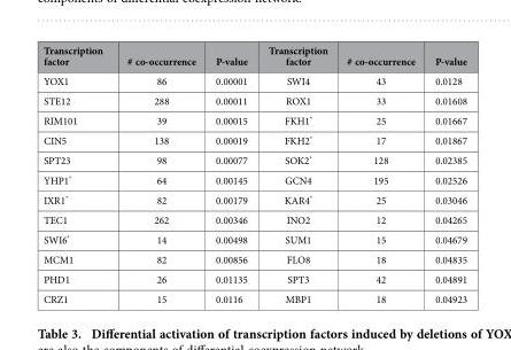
<table><thead><tr><td>Transcription factor</td><td># co-occurrence</td><td>P-value</td><td>Transcription factor</td><td># co-occurrence</td><td>P-value</td></tr></thead><tbody><tr><td>YOX1</td><td>86</td><td>0.00001</td><td>SWI4</td><td>43</td><td>0.0128</td></tr><tr><td>STE12</td><td>288</td><td>0.00011</td><td>ROX1</td><td>33</td><td>0.01608</td></tr><tr><td>RIM101</td><td>39</td><td>0.00015</td><td>FKH1*</td><td>25</td><td>0.01667</td></tr><tr><td>CIN5</td><td>138</td><td>0.00019</td><td>FKH2*</td><td>17</td><td>0.01867</td></tr><tr><td>SPT23</td><td>98</td><td>0.00077</td><td>SOK2*</td><td>128</td><td>0.02385</td></tr><tr><td>YHP1*</td><td>64</td><td>0.00145</td><td>GCN4</td><td>195</td><td>0.02526</td></tr><tr><td>IXR1*</td><td>82</td><td>0.00179</td><td>KAR4*</td><td>25</td><td>0.03046</td></tr><tr><td>TEC1</td><td>262</td><td>0.00346</td><td>INO2</td><td>12</td><td>0.04265</td></tr><tr><td>SWI6*</td><td>14</td><td>0.00498</td><td>SUM1</td><td>15</td><td>0.04679</td></tr><tr><td>MCM1</td><td>82</td><td>0.00856</td><td>FLO8</td><td>18</td><td>0.04835</td></tr><tr><td>PHD1</td><td>26</td><td>0.01135</td><td>SPT3</td><td>42</td><td>0.04891</td></tr><tr><td>CRZ1</td><td>15</td><td>0.0116</td><td>MBP1</td><td>18</td><td>0.04923</td></tr></tbody></table>